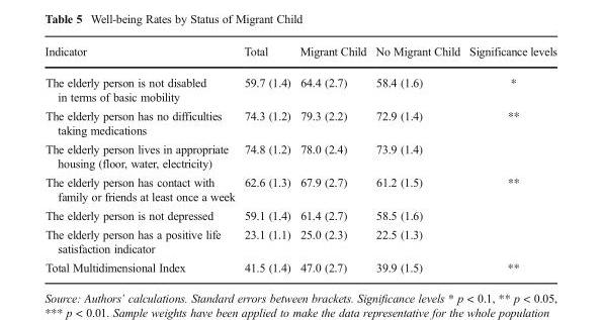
<table><thead><tr><td>Indicator</td><td>Total</td><td>Migrant Child</td><td>No Migrant Child</td><td>Significance levels</td></tr></thead><tbody><tr><td>The elderly person is not disabled in terms of basic mobility</td><td>59.7 (1.4)</td><td>64.4 (2.7)</td><td>58.4 (1.6)</td><td>*</td></tr><tr><td>The elderly person has no difficulties taking medications</td><td>74.3 (1.2)</td><td>79.3 (2.2)</td><td>72.9 (1.4)</td><td>**</td></tr><tr><td>The elderly person lives in appropriate housing (floor, water, electricity)</td><td>74.8 (1.2)</td><td>78.0 (2.4)</td><td>73.9 (1.4)</td><td></td></tr><tr><td>The elderly person has contact with family or friends at least once a week</td><td>62.6 (1.3)</td><td>67.9 (2.7)</td><td>61.2 (1.5)</td><td>**</td></tr><tr><td>The elderly person is not depressed</td><td>59.1 (1.4)</td><td>61.4 (2.7)</td><td>58.5 (1.6)</td><td></td></tr><tr><td>The elderly person has a positive life satisfaction indicator</td><td>23.1 (1.1)</td><td>25.0 (2.3)</td><td>22.5 (1.3)</td><td></td></tr><tr><td>Total Multidimensional Index</td><td>41.5 (1.4)</td><td>47.0 (2.7)</td><td>39.9 (1.5)</td><td>**</td></tr></tbody></table>